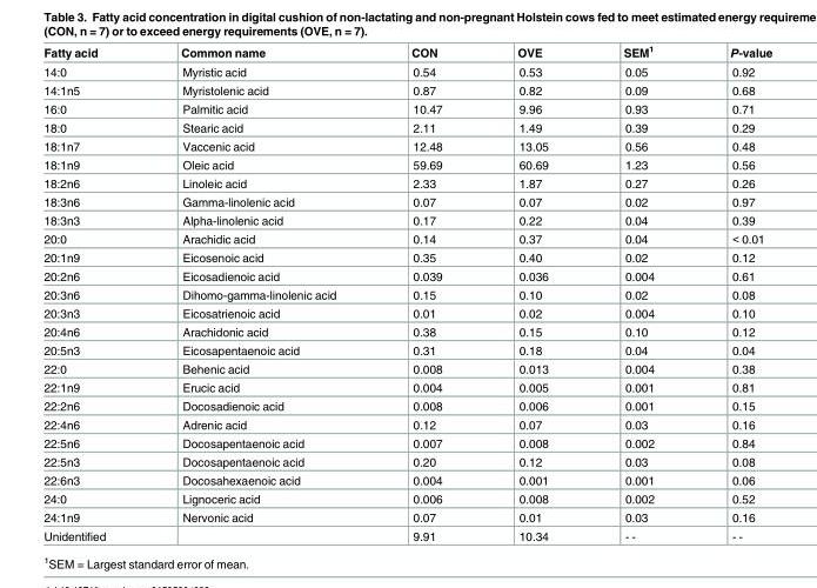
<table><thead><tr><td>Fatty acid</td><td>Common name</td><td>CON</td><td>OVE</td><td>SEM<sup>1</sup></td><td>P-value</td></tr></thead><tbody><tr><td>14:0</td><td>Myristic acid</td><td>0.54</td><td>0.53</td><td>0.05</td><td>0.92</td></tr><tr><td>14:1n5</td><td>Myristolenic acid</td><td>0.87</td><td>0.82</td><td>0.09</td><td>0.68</td></tr><tr><td>16:0</td><td>Palmitic acid</td><td>10.47</td><td>9.96</td><td>0.93</td><td>0.71</td></tr><tr><td>18:0</td><td>Stearic acid</td><td>2.11</td><td>1.49</td><td>0.39</td><td>0.29</td></tr><tr><td>18:1n7</td><td>Vaccenic acid</td><td>12.48</td><td>13.05</td><td>0.56</td><td>0.48</td></tr><tr><td>18:1n9</td><td>Oleic acid</td><td>59.69</td><td>60.69</td><td>1.23</td><td>0.56</td></tr><tr><td>18:2n6</td><td>Linoleic acid</td><td>2.33</td><td>1.87</td><td>0.27</td><td>0.26</td></tr><tr><td>18:3n6</td><td>Gamma-linolenic acid</td><td>0.07</td><td>0.07</td><td>0.02</td><td>0.97</td></tr><tr><td>18:3n3</td><td>Alpha-linolenic acid</td><td>0.17</td><td>0.22</td><td>0.04</td><td>0.39</td></tr><tr><td>20:0</td><td>Arachidic acid</td><td>0.14</td><td>0.37</td><td>0.04</td><td>&lt; 0.01</td></tr><tr><td>20:1n9</td><td>Eicosenoic acid</td><td>0.35</td><td>0.40</td><td>0.02</td><td>0.12</td></tr><tr><td>20:2n6</td><td>Eicosadienoic acid</td><td>0.039</td><td>0.036</td><td>0.004</td><td>0.61</td></tr><tr><td>20:3n6</td><td>Dihomo-gamma-linolenic acid</td><td>0.15</td><td>0.10</td><td>0.02</td><td>0.08</td></tr><tr><td>20:3n3</td><td>Eicosatrienoic acid</td><td>0.01</td><td>0.02</td><td>0.004</td><td>0.10</td></tr><tr><td>20:4n6</td><td>Arachidonic acid</td><td>0.38</td><td>0.15</td><td>0.10</td><td>0.12</td></tr><tr><td>20:5n3</td><td>Eicosapentaenoic acid</td><td>0.31</td><td>0.18</td><td>0.04</td><td>0.04</td></tr><tr><td>22:0</td><td>Behenic acid</td><td>0.008</td><td>0.013</td><td>0.004</td><td>0.38</td></tr><tr><td>22:1n9</td><td>Erucic acid</td><td>0.004</td><td>0.005</td><td>0.001</td><td>0.81</td></tr><tr><td>22:2n6</td><td>Docosadienoic acid</td><td>0.008</td><td>0.006</td><td>0.001</td><td>0.15</td></tr><tr><td>22:4n6</td><td>Adrenic acid</td><td>0.12</td><td>0.07</td><td>0.03</td><td>0.16</td></tr><tr><td>22:5n6</td><td>Docosapentaenoic acid</td><td>0.007</td><td>0.008</td><td>0.002</td><td>0.84</td></tr><tr><td>22:5n3</td><td>Docosapentaenoic acid</td><td>0.20</td><td>0.12</td><td>0.03</td><td>0.08</td></tr><tr><td>22:6n3</td><td>Docosahexaenoic acid</td><td>0.004</td><td>0.001</td><td>0.001</td><td>0.06</td></tr><tr><td>24:0</td><td>Lignoceric acid</td><td>0.006</td><td>0.008</td><td>0.002</td><td>0.52</td></tr><tr><td>24:1n9</td><td>Nervonic acid</td><td>0.07</td><td>0.01</td><td>0.03</td><td>0.16</td></tr><tr><td>Unidentified</td><td></td><td>9.91</td><td>10.34</td><td>- -</td><td>- -</td></tr></tbody></table>